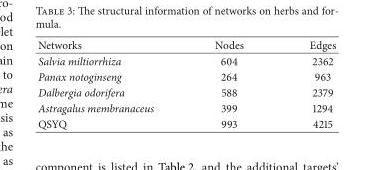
<table><thead><tr><td>Networks</td><td>Nodes</td><td>Edges</td></tr></thead><tbody><tr><td>Salvia miltiorrhiza</td><td>604</td><td>2362</td></tr><tr><td>Panax notoginseng</td><td>264</td><td>963</td></tr><tr><td>Dalbergia odorifera</td><td>588</td><td>2379</td></tr><tr><td>Astragalus membranaceus</td><td>399</td><td>1294</td></tr><tr><td>QSYQ</td><td>993</td><td>4215</td></tr></tbody></table>